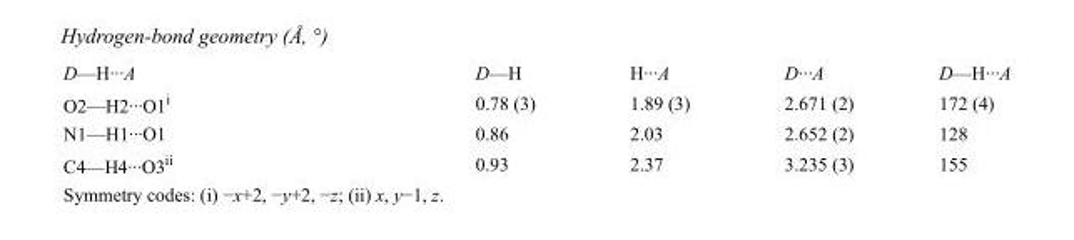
<table><tbody><tr><td>D—H···A</td><td>D—H</td><td>H···A</td><td>D···A</td><td>D—H···A</td></tr><tr><td>O2—H2···O1<sup>i</sup></td><td>0.78 (3)</td><td>1.89 (3)</td><td>2.671 (2)</td><td>172 (4)</td></tr><tr><td>N1—H1···O1</td><td>0.86</td><td>2.03</td><td>2.652 (2)</td><td>128</td></tr><tr><td>C4—H4···O3<sup>ii</sup></td><td>0.93</td><td>2.37</td><td>3.235 (3)</td><td>155</td></tr></tbody></table>